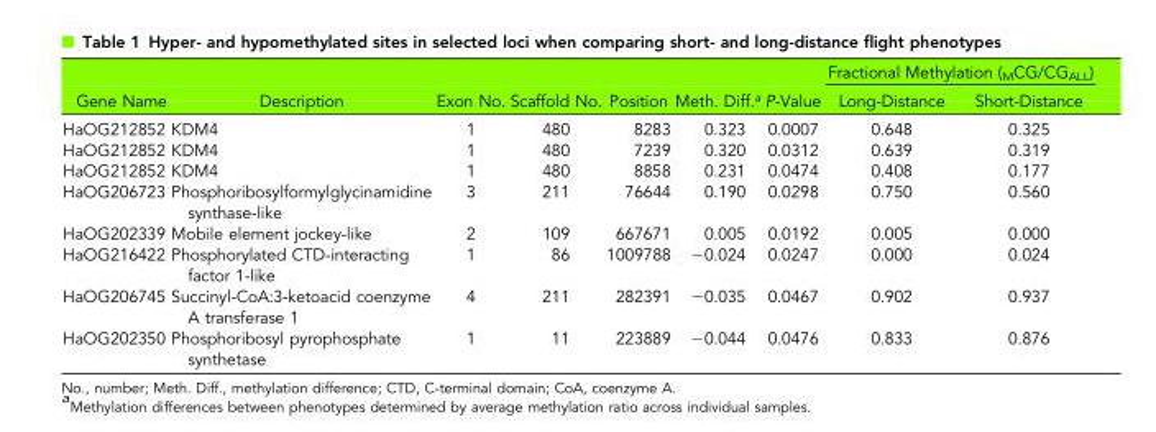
<table><thead><tr><td rowspan="2">Gene Name</td><td rowspan="2">Description</td><td rowspan="2">Exon No.</td><td rowspan="2">Scaffold No.</td><td rowspan="2">Position</td><td rowspan="2">Meth. Diff.<sup>a</sup></td><td rowspan="2">P-Value</td><td colspan="2">Fractional Methylation (<sub>M</sub>CG/CG<sub>ALL</sub>)</td></tr><tr><td>Long-Distance</td><td>Short-Distance</td></tr></thead><tbody><tr><td>HaOG212852</td><td>KDM4</td><td>1</td><td>480</td><td>8283</td><td>0.323</td><td>0.0007</td><td>0.648</td><td>0.325</td></tr><tr><td>HaOG212852</td><td>KDM4</td><td>1</td><td>480</td><td>7239</td><td>0.320</td><td>0.0312</td><td>0.639</td><td>0.319</td></tr><tr><td>HaOG212852</td><td>KDM4</td><td>1</td><td>480</td><td>8858</td><td>0.231</td><td>0.0474</td><td>0.408</td><td>0.177</td></tr><tr><td>HaOG206723</td><td>Phosphoribosylformylglycinamidine synthase-like</td><td>3</td><td>211</td><td>76644</td><td>0.190</td><td>0.0298</td><td>0.750</td><td>0.560</td></tr><tr><td>HaOG202339</td><td>Mobile element jockey-like</td><td>2</td><td>109</td><td>667671</td><td>0.005</td><td>0.0192</td><td>0.005</td><td>0.000</td></tr><tr><td>HaOG216422</td><td>Phosphorylated CTD-interacting factor 1-like</td><td>1</td><td>86</td><td>1009788</td><td>−0.024</td><td>0.0247</td><td>0.000</td><td>0.024</td></tr><tr><td>HaOG206745</td><td>Succinyl-CoA:3-ketoacid coenzyme A transferase 1</td><td>4</td><td>211</td><td>282391</td><td>−0.035</td><td>0.0467</td><td>0.902</td><td>0.937</td></tr><tr><td>HaOG202350</td><td>Phosphoribosyl pyrophosphate synthetase</td><td>1</td><td>11</td><td>223889</td><td>−0.044</td><td>0.0476</td><td>0.833</td><td>0.876</td></tr></tbody></table>